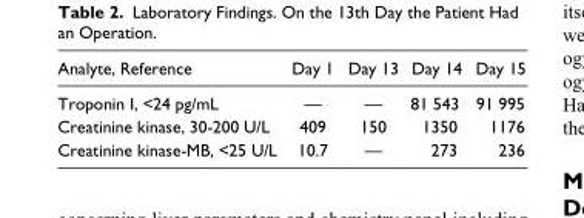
<table><thead><tr><td>Analyte, Reference</td><td>Day 1</td><td>Day 13</td><td>Day 14</td><td>Day 15</td></tr></thead><tbody><tr><td>Troponin I, &lt;24 pg/mL</td><td>—</td><td>—</td><td>81 543</td><td>91 995</td></tr><tr><td>Creatinine kinase, 30-200 U/L</td><td>409</td><td>150</td><td>1350</td><td>1176</td></tr><tr><td>Creatinine kinase-MB, &lt;25 U/L</td><td>10.7</td><td>—</td><td>273</td><td>236</td></tr></tbody></table>